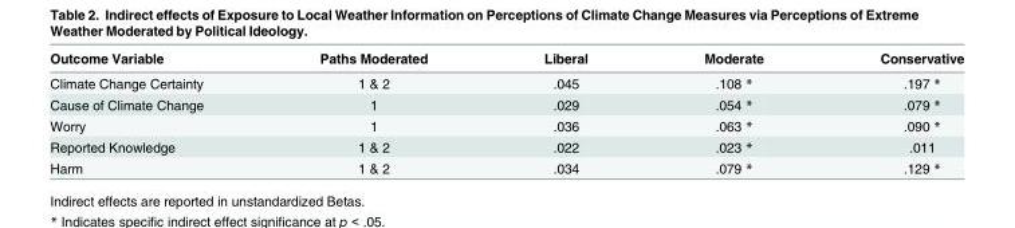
<table><thead><tr><td>Outcome Variable</td><td>Paths Moderated</td><td>Liberal</td><td>Moderate</td><td>Conservative</td></tr></thead><tbody><tr><td>Climate Change Certainty</td><td>1 &amp; 2</td><td>.045</td><td>.108 *</td><td>.197 *</td></tr><tr><td>Cause of Climate Change</td><td>1</td><td>.029</td><td>.054 *</td><td>.079 *</td></tr><tr><td>Worry</td><td>1</td><td>.036</td><td>.063 *</td><td>.090 *</td></tr><tr><td>Reported Knowledge</td><td>1 &amp; 2</td><td>.022</td><td>.023 *</td><td>.011</td></tr><tr><td>Harm</td><td>1 &amp; 2</td><td>.034</td><td>.079 *</td><td>.129 *</td></tr></tbody></table>